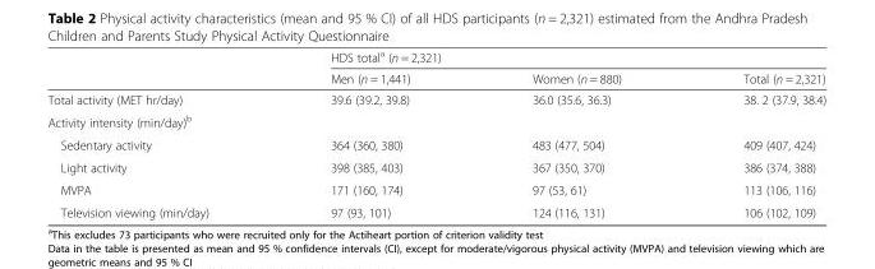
<table><thead><tr><td rowspan="2"></td><td colspan="3">HDS total<sup>a</sup> (n = 2,321)</td></tr><tr><td>Men (n = 1,441)</td><td>Women (n = 880)</td><td>Total (n = 2,321)</td></tr></thead><tbody><tr><td>Total activity (MET hr/day)</td><td>39.6 (39.2, 39.8)</td><td>36.0 (35.6, 36.3)</td><td>38. 2 (37.9, 38.4)</td></tr><tr><td colspan="4">Activity intensity (min/day)<sup>b</sup></td></tr><tr><td>Sedentary activity</td><td>364 (360, 380)</td><td>483 (477, 504)</td><td>409 (407, 424)</td></tr><tr><td>Light activity</td><td>398 (385, 403)</td><td>367 (350, 370)</td><td>386 (374, 388)</td></tr><tr><td>MVPA</td><td>171 (160, 174)</td><td>97 (53, 61)</td><td>113 (106, 116)</td></tr><tr><td>Television viewing (min/day)</td><td>97 (93, 101)</td><td>124 (116, 131)</td><td>106 (102, 109)</td></tr></tbody></table>